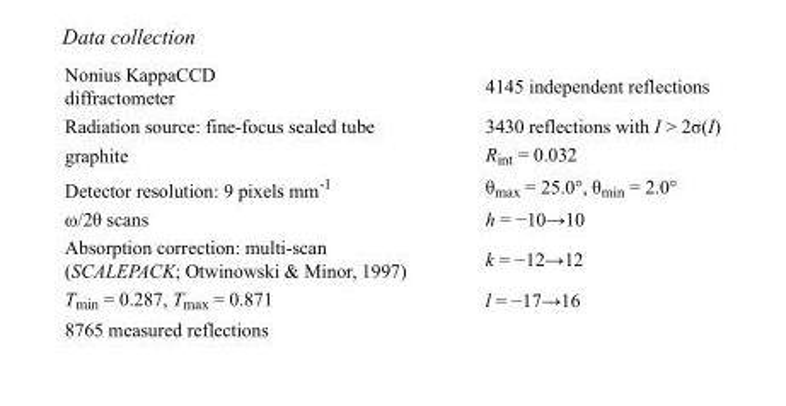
<table><tbody><tr><td>Nonius KappaCCD diffractometer</td><td>4145 independent reflections</td></tr><tr><td>Radiation source: fine-focus sealed tube</td><td>3430 reflections with I &gt; 2σ(I)</td></tr><tr><td>graphite</td><td>R<sub>int</sub> = 0.032</td></tr><tr><td>Detector resolution: 9 pixels mm<sup>-1</sup></td><td>θ<sub>max</sub> = 25.0°, θ<sub>min</sub> = 2.0°</td></tr><tr><td>ω/2θ scans</td><td>h = −10→10</td></tr><tr><td>Absorption correction: multi-scan (SCALEPACK; Otwinowski &amp; Minor, 1997)</td><td>k = −12→12</td></tr><tr><td>T<sub>min</sub> = 0.287, T<sub>max</sub> = 0.871</td><td>l = −17→16</td></tr><tr><td>8765 measured reflections</td><td></td></tr></tbody></table>